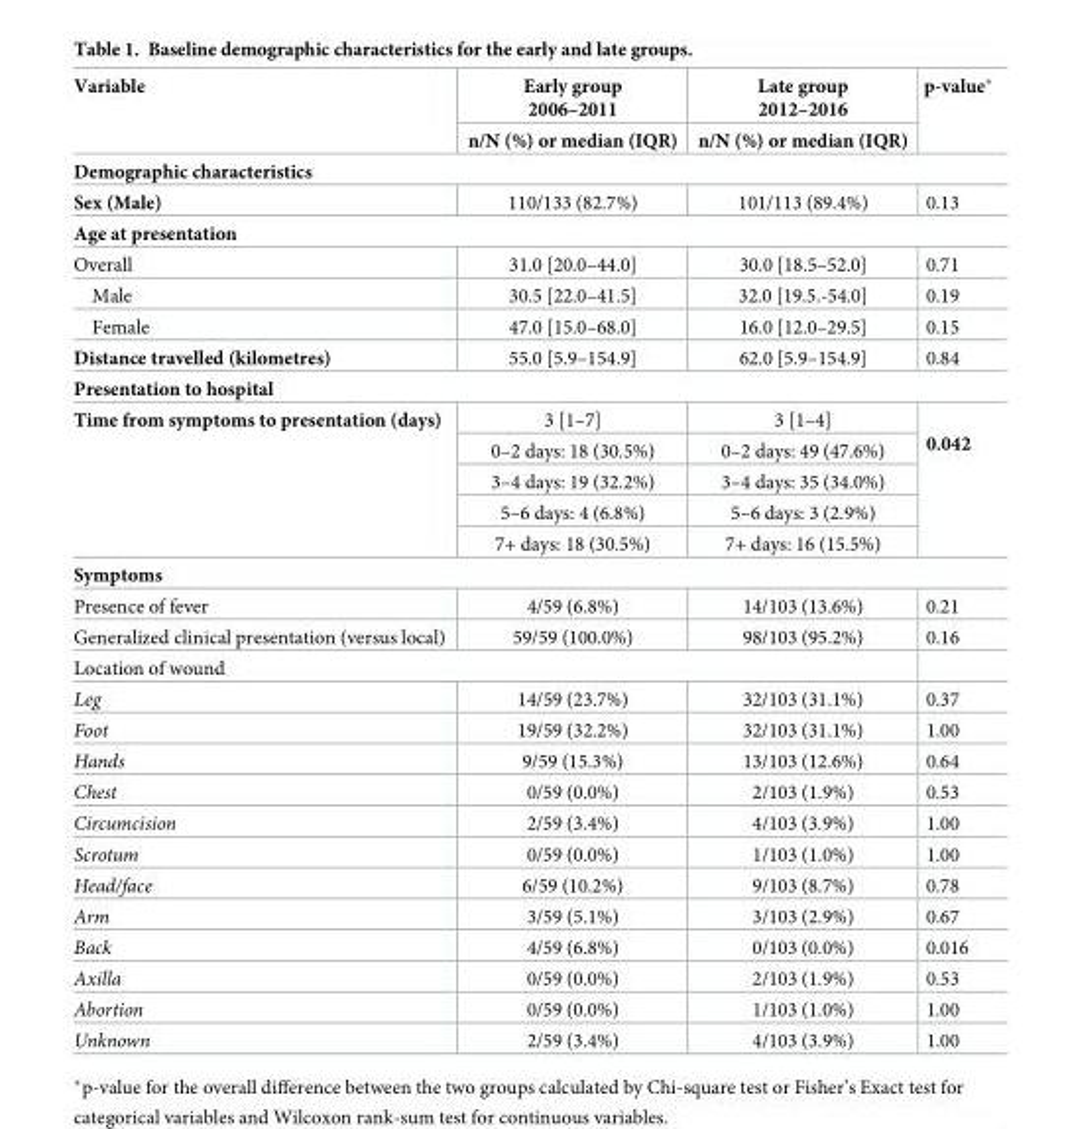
<table><thead><tr><td rowspan="2">Variable</td><td rowspan="2">Early group 2006–2011 n/N (%) or median (IQR)</td><td rowspan="2">Late group 2012–2016 n/N (%) or median (IQR)</td><td rowspan="2">p-value*</td></tr><tr></tr></thead><tbody><tr><td colspan="4">Demographic characteristics</td></tr><tr><td>Sex (Male)</td><td>110/133 (82.7%)</td><td>101/113 (89.4%)</td><td>0.13</td></tr><tr><td colspan="4">Age at presentation</td></tr><tr><td>Overall</td><td>31.0 [20.0–44.0]</td><td>30.0 [18.5–52.0]</td><td>0.71</td></tr><tr><td>Male</td><td>30.5 [22.0–41.5]</td><td>32.0 [19.5.-54.0]</td><td>0.19</td></tr><tr><td>Female</td><td>47.0 [15.0–68.0]</td><td>16.0 [12.0–29.5]</td><td>0.15</td></tr><tr><td>Distance travelled (kilometres)</td><td>55.0 [5.9–154.9]</td><td>62.0 [5.9–154.9]</td><td>0.84</td></tr><tr><td colspan="4">Presentation to hospital</td></tr><tr><td rowspan="5">Time from symptoms to presentation (days)</td><td>3 [1–7]</td><td>3 [1–4]</td><td rowspan="5">0.042</td></tr><tr><td>0–2 days: 18 (30.5%)</td><td>0–2 days: 49 (47.6%)</td></tr><tr><td>3–4 days: 19 (32.2%)</td><td>3–4 days: 35 (34.0%)</td></tr><tr><td>5–6 days: 4 (6.8%)</td><td>5–6 days: 3 (2.9%)</td></tr><tr><td>7+ days: 18 (30.5%)</td><td>7+ days: 16 (15.5%)</td></tr><tr><td colspan="4">Symptoms</td></tr><tr><td>Presence of fever</td><td>4/59 (6.8%)</td><td>14/103 (13.6%)</td><td>0.21</td></tr><tr><td>Generalized clinical presentation (versus local)</td><td>59/59 (100.0%)</td><td>98/103 (95.2%)</td><td>0.16</td></tr><tr><td colspan="4">Location of wound</td></tr><tr><td>Leg</td><td>14/59 (23.7%)</td><td>32/103 (31.1%)</td><td>0.37</td></tr><tr><td>Foot</td><td>19/59 (32.2%)</td><td>32/103 (31.1%)</td><td>1.00</td></tr><tr><td>Hands</td><td>9/59 (15.3%)</td><td>13/103 (12.6%)</td><td>0.64</td></tr><tr><td>Chest</td><td>0/59 (0.0%)</td><td>2/103 (1.9%)</td><td>0.53</td></tr><tr><td>Circumcision</td><td>2/59 (3.4%)</td><td>4/103 (3.9%)</td><td>1.00</td></tr><tr><td>Scrotum</td><td>0/59 (0.0%)</td><td>1/103 (1.0%)</td><td>1.00</td></tr><tr><td>Head/face</td><td>6/59 (10.2%)</td><td>9/103 (8.7%)</td><td>0.78</td></tr><tr><td>Arm</td><td>3/59 (5.1%)</td><td>3/103 (2.9%)</td><td>0.67</td></tr><tr><td>Back</td><td>4/59 (6.8%)</td><td>0/103 (0.0%)</td><td>0.016</td></tr><tr><td>Axilla</td><td>0/59 (0.0%)</td><td>2/103 (1.9%)</td><td>0.53</td></tr><tr><td>Abortion</td><td>0/59 (0.0%)</td><td>1/103 (1.0%)</td><td>1.00</td></tr><tr><td>Unknown</td><td>2/59 (3.4%)</td><td>4/103 (3.9%)</td><td>1.00</td></tr></tbody></table>